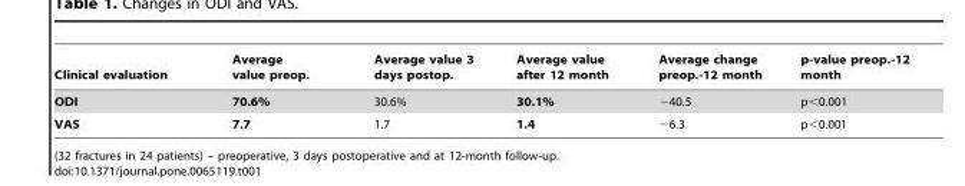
<table><thead><tr><td>Clinical evaluation</td><td>Average value preop.</td><td>Average value 3 days postop.</td><td>Average value after 12 month</td><td>Average change preop.-12 month</td><td>p-value preop.-12 month</td></tr></thead><tbody><tr><td>ODI</td><td>70.6%</td><td>30.6%</td><td>30.1%</td><td>−40.5</td><td>p&lt;0.001</td></tr><tr><td>VAS</td><td>7.7</td><td>1.7</td><td>1.4</td><td>−6.3</td><td>p&lt;0.001</td></tr></tbody></table>